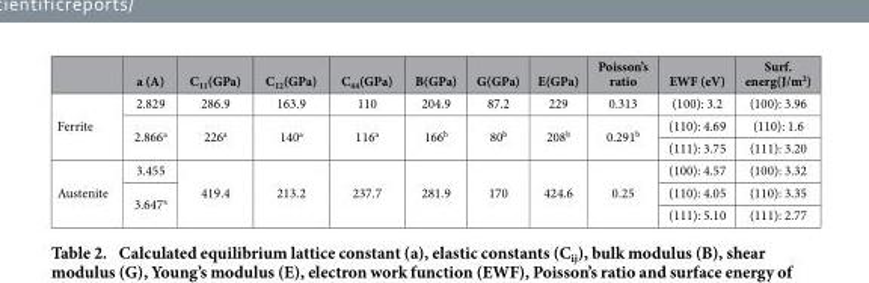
<table><thead><tr><td></td><td>a (A)</td><td>C<sub>11</sub>(GPa)</td><td>C<sub>12</sub>(GPa)</td><td>C<sub>44</sub>(GPa)</td><td>B(GPa)</td><td>G(GPa)</td><td>E(GPa)</td><td>Poisson’s ratio</td><td>EWF (eV)</td><td>Surf. energ(J/m<sup>2</sup>)</td></tr></thead><tbody><tr><td rowspan="3">Ferrite</td><td>2.829</td><td>286.9</td><td>163.9</td><td>110</td><td>204.9</td><td>87.2</td><td>229</td><td>0.313</td><td>(100): 3.2</td><td>(100): 3.96</td></tr><tr><td rowspan="2">2.866<sup>a</sup></td><td rowspan="2">226<sup>a</sup></td><td rowspan="2">140<sup>a</sup></td><td rowspan="2">116<sup>a</sup></td><td rowspan="2">166<sup>b</sup></td><td rowspan="2">80<sup>b</sup></td><td rowspan="2">208<sup>b</sup></td><td rowspan="2">0.291<sup>b</sup></td><td>(110): 4.69</td><td>(110): 1.6</td></tr><tr><td>(111): 3.75</td><td>(111): 3.20</td></tr><tr><td rowspan="3">Austenite</td><td>3.455</td><td rowspan="3">419.4</td><td rowspan="3">213.2</td><td rowspan="3">237.7</td><td rowspan="3">281.9</td><td rowspan="3">170</td><td rowspan="3">424.6</td><td rowspan="3">0.25</td><td>(100): 4.57</td><td>(100): 3.32</td></tr><tr><td rowspan="2">3.647<sup>a</sup></td><td>(110): 4.05</td><td>(110): 3.35</td></tr><tr><td>(111): 5.10</td><td>(111): 2.77</td></tr></tbody></table>